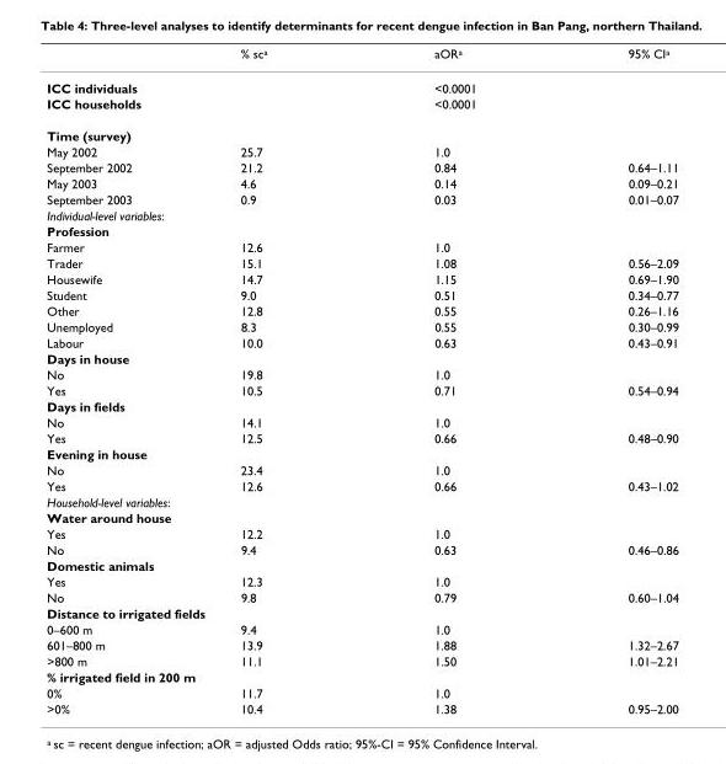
<table><thead><tr><td></td><td>% sc<sup>a</sup></td><td>aOR<sup>a</sup></td><td>95% CI<sup>a</sup></td></tr></thead><tbody><tr><td>ICC individuals</td><td></td><td>&lt;0.0001</td><td></td></tr><tr><td>ICC households</td><td></td><td>&lt;0.0001</td><td></td></tr><tr><td colspan="4">Time (survey)</td></tr><tr><td>May 2002</td><td>25.7</td><td>1.0</td><td></td></tr><tr><td>September 2002</td><td>21.2</td><td>0.84</td><td>0.64–1.11</td></tr><tr><td>May 2003</td><td>4.6</td><td>0.14</td><td>0.09–0.21</td></tr><tr><td>September 2003</td><td>0.9</td><td>0.03</td><td>0.01–0.07</td></tr><tr><td colspan="4">Individual-level variables:</td></tr><tr><td colspan="4">Profession</td></tr><tr><td>Farmer</td><td>12.6</td><td>1.0</td><td></td></tr><tr><td>Trader</td><td>15.1</td><td>1.08</td><td>0.56–2.09</td></tr><tr><td>Housewife</td><td>14.7</td><td>1.15</td><td>0.69–1.90</td></tr><tr><td>Student</td><td>9.0</td><td>0.51</td><td>0.34–0.77</td></tr><tr><td>Other</td><td>12.8</td><td>0.55</td><td>0.26–1.16</td></tr><tr><td>Unemployed</td><td>8.3</td><td>0.55</td><td>0.30–0.99</td></tr><tr><td>Labour</td><td>10.0</td><td>0.63</td><td>0.43–0.91</td></tr><tr><td colspan="4">Days in house</td></tr><tr><td>No</td><td>19.8</td><td>1.0</td><td></td></tr><tr><td>Yes</td><td>10.5</td><td>0.71</td><td>0.54–0.94</td></tr><tr><td colspan="4">Days in fields</td></tr><tr><td>No</td><td>14.1</td><td>1.0</td><td></td></tr><tr><td>Yes</td><td>12.5</td><td>0.66</td><td>0.48–0.90</td></tr><tr><td colspan="4">Evening in house</td></tr><tr><td>No</td><td>23.4</td><td>1.0</td><td></td></tr><tr><td>Yes</td><td>12.6</td><td>0.66</td><td>0.43–1.02</td></tr><tr><td colspan="4">Household-level variables:</td></tr><tr><td colspan="4">Water around house</td></tr><tr><td>Yes</td><td>12.2</td><td>1.0</td><td></td></tr><tr><td>No</td><td>9.4</td><td>0.63</td><td>0.46–0.86</td></tr><tr><td colspan="4">Domestic animals</td></tr><tr><td>Yes</td><td>12.3</td><td>1.0</td><td></td></tr><tr><td>No</td><td>9.8</td><td>0.79</td><td>0.60–1.04</td></tr><tr><td colspan="4">Distance to irrigated fields</td></tr><tr><td>0–600 m</td><td>9.4</td><td>1.0</td><td></td></tr><tr><td>601–800 m</td><td>13.9</td><td>1.88</td><td>1.32–2.67</td></tr><tr><td>&gt;800 m</td><td>11.1</td><td>1.50</td><td>1.01–2.21</td></tr><tr><td colspan="4">% irrigated field in 200 m</td></tr><tr><td>0%</td><td>11.7</td><td>1.0</td><td></td></tr><tr><td>&gt;0%</td><td>10.4</td><td>1.38</td><td>0.95–2.00</td></tr></tbody></table>